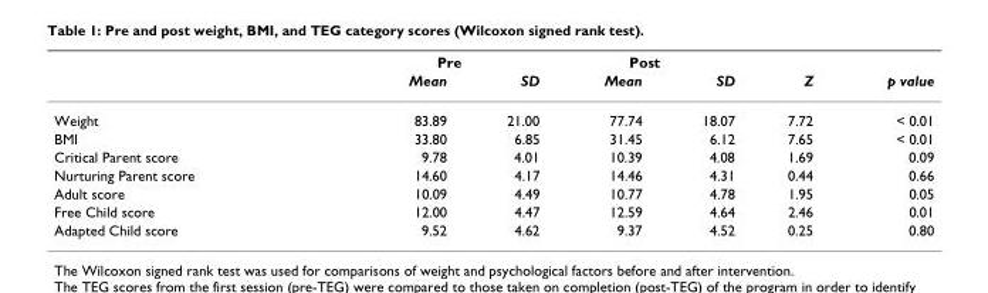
<table><thead><tr><td rowspan="2"></td><td colspan="2">Pre</td><td colspan="2">Post</td><td rowspan="2">Z</td><td rowspan="2">p value</td></tr><tr><td>Mean</td><td>SD</td><td>Mean</td><td>SD</td></tr></thead><tbody><tr><td>Weight</td><td>83.89</td><td>21.00</td><td>77.74</td><td>18.07</td><td>7.72</td><td>&lt; 0.01</td></tr><tr><td>BMI</td><td>33.80</td><td>6.85</td><td>31.45</td><td>6.12</td><td>7.65</td><td>&lt; 0.01</td></tr><tr><td>Critical Parent score</td><td>9.78</td><td>4.01</td><td>10.39</td><td>4.08</td><td>1.69</td><td>0.09</td></tr><tr><td>Nurturing Parent score</td><td>14.60</td><td>4.17</td><td>14.46</td><td>4.31</td><td>0.44</td><td>0.66</td></tr><tr><td>Adult score</td><td>10.09</td><td>4.49</td><td>10.77</td><td>4.78</td><td>1.95</td><td>0.05</td></tr><tr><td>Free Child score</td><td>12.00</td><td>4.47</td><td>12.59</td><td>4.64</td><td>2.46</td><td>0.01</td></tr><tr><td>Adapted Child score</td><td>9.52</td><td>4.62</td><td>9.37</td><td>4.52</td><td>0.25</td><td>0.80</td></tr></tbody></table>